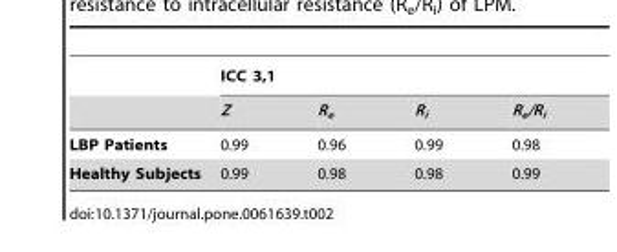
<table><thead><tr><td rowspan="2"></td><td colspan="4">ICC 3,1</td></tr><tr><td>Z</td><td>R<sub>e</sub></td><td>R<sub>i</sub></td><td>R<sub>e</sub>/R<sub>i</sub></td></tr></thead><tbody><tr><td>LBP Patients</td><td>0.99</td><td>0.96</td><td>0.99</td><td>0.98</td></tr><tr><td>Healthy Subjects</td><td>0.99</td><td>0.98</td><td>0.98</td><td>0.99</td></tr></tbody></table>